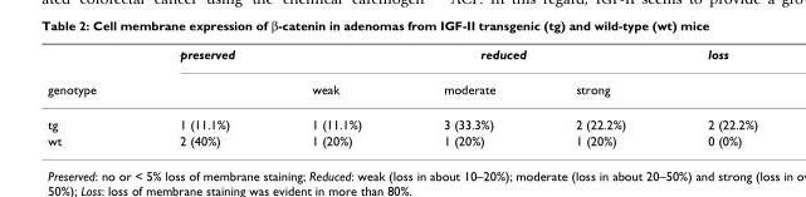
<table><thead><tr><td rowspan="2">genotype</td><td rowspan="2">preserved</td><td colspan="3">reduced</td><td rowspan="2">loss</td></tr><tr><td>weak</td><td>moderate</td><td>strong</td></tr></thead><tbody><tr><td>tg</td><td>1 (11.1%)</td><td>1 (11.1%)</td><td>3 (33.3%)</td><td>2 (22.2%)</td><td>2 (22.2%)</td></tr><tr><td>wt</td><td>2 (40%)</td><td>1 (20%)</td><td>1 (20%)</td><td>1 (20%)</td><td>0 (0%)</td></tr></tbody></table>